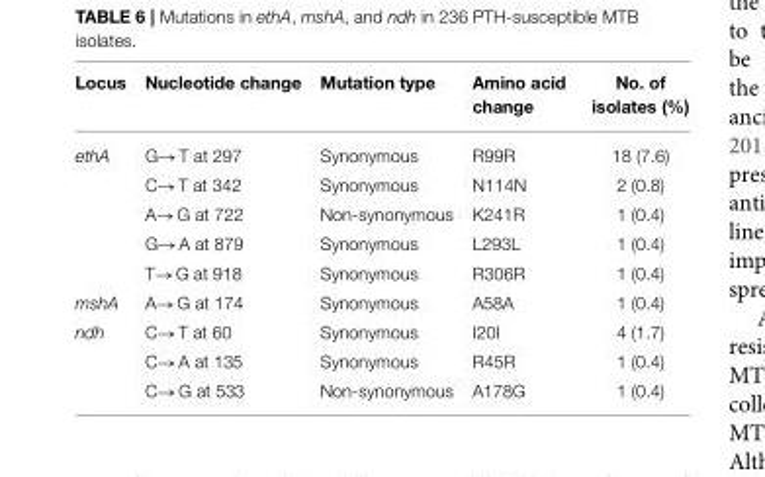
<table><thead><tr><td>Locus</td><td>Nucleotide change</td><td>Mutation type</td><td>Amino acid change</td><td>No. of isolates (%)</td></tr></thead><tbody><tr><td rowspan="5">ethA</td><td>G→T at 297</td><td>Synonymous</td><td>R99R</td><td>18 (7.6)</td></tr><tr><td>C→T at 342</td><td>Synonymous</td><td>N114N</td><td>2 (0.8)</td></tr><tr><td>A→G at 722</td><td>Non-synonymous</td><td>K241R</td><td>1 (0.4)</td></tr><tr><td>G→A at 879</td><td>Synonymous</td><td>L293L</td><td>1 (0.4)</td></tr><tr><td>T→G at 918</td><td>Synonymous</td><td>R306R</td><td>1 (0.4)</td></tr><tr><td>mshA</td><td>A→G at 174</td><td>Synonymous</td><td>A58A</td><td>1 (0.4)</td></tr><tr><td rowspan="3">ndh</td><td>C→T at 60</td><td>Synonymous</td><td>I20I</td><td>4 (1.7)</td></tr><tr><td>C→A at 135</td><td>Synonymous</td><td>R45R</td><td>1 (0.4)</td></tr><tr><td>C→G at 533</td><td>Non-synonymous</td><td>A178G</td><td>1 (0.4)</td></tr></tbody></table>